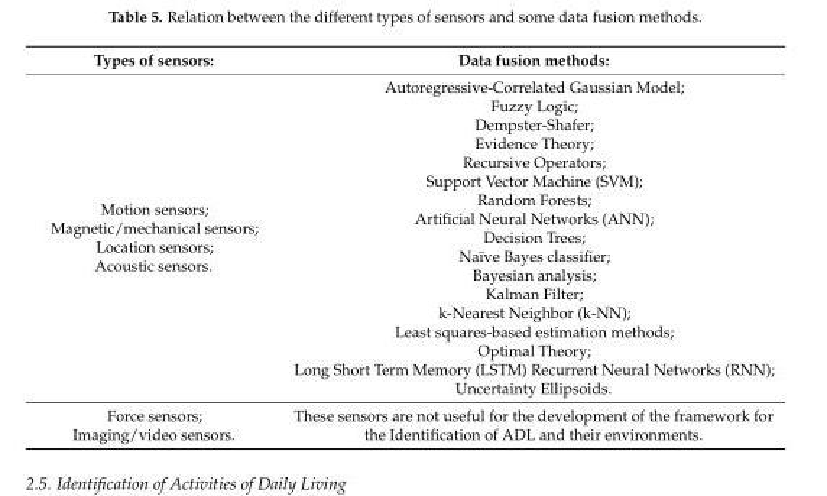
<table><thead><tr><td>Types of sensors:</td><td>Data fusion methods:</td></tr></thead><tbody><tr><td>Motion sensors; Magnetic/mechanical sensors; Location sensors; Acoustic sensors.</td><td>Autoregressive-Correlated Gaussian Model; Fuzzy Logic; Dempster-Shafer; Evidence Theory; Recursive Operators; Support Vector Machine (SVM); Random Forests; Artificial Neural Networks (ANN); Decision Trees; Naïve Bayes classifier; Bayesian analysis; Kalman Filter; k-Nearest Neighbor (k-NN); Least squares-based estimation methods; Optimal Theory; Long Short Term Memory (LSTM) Recurrent Neural Networks (RNN); Uncertainty Ellipsoids.</td></tr><tr><td>Force sensors; Imaging/video sensors.</td><td>These sensors are not useful for the development of the framework for the Identification of ADL and their environments.</td></tr></tbody></table>